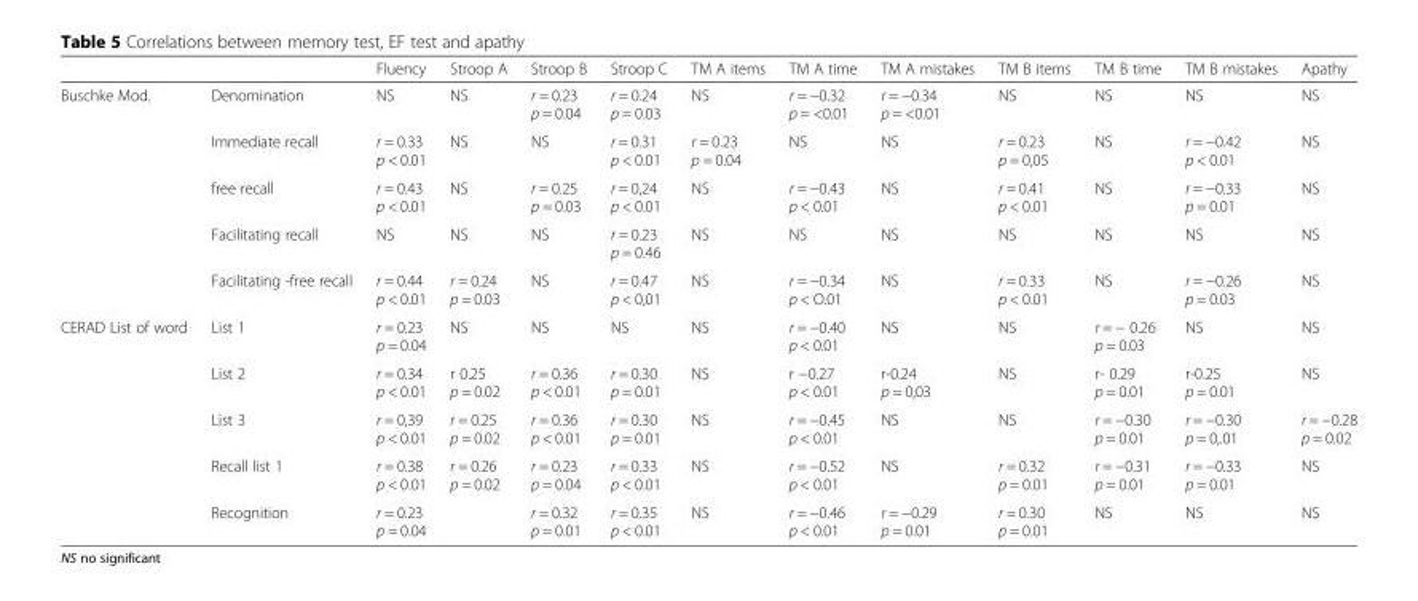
<table><thead><tr><td></td><td></td><td>Fluency</td><td>Stroop A</td><td>Stroop B</td><td>Stroop C</td><td>TM A items</td><td>TM A time</td><td>TM A mistakes</td><td>TM B items</td><td>TM B time</td><td>TM B mistakes</td><td>Apathy</td></tr></thead><tbody><tr><td rowspan="5">Buschke Mod.</td><td>Denomination</td><td>NS</td><td>NS</td><td>r = 0.23 p = 0.04</td><td>r = 0.24 p = 0.03</td><td>NS</td><td>r = −0.32 p = &lt;0.01</td><td>r = −0.34 p = &lt;0.01</td><td>NS</td><td>NS</td><td>NS</td><td>NS</td></tr><tr><td>Immediate recall</td><td>r = 0.33 p &lt; 0.01</td><td>NS</td><td>NS</td><td>r = 0.31 p &lt; 0.01</td><td>r = 0.23 p = 0.04</td><td>NS</td><td>NS</td><td>r = 0.23 p = 0,05</td><td>NS</td><td>r = −0.42 p &lt; 0.01</td><td>NS</td></tr><tr><td>free recall</td><td>r = 0.43 p &lt; 0.01</td><td>NS</td><td>r = 0.25 p = 0.03</td><td>r = 0,24 p &lt; 0.01</td><td>NS</td><td>r = −0.43 p &lt; 0.01</td><td>NS</td><td>r = 0.41 p &lt; 0.01</td><td>NS</td><td>r = −0.33 p = 0.01</td><td>NS</td></tr><tr><td>Facilitating recall</td><td>NS</td><td>NS</td><td>NS</td><td>r = 0.23 p = 0.46</td><td>NS</td><td>NS</td><td>NS</td><td>NS</td><td>NS</td><td>NS</td><td>NS</td></tr><tr><td>Facilitating -free recall</td><td>r = 0.44 p &lt; 0.01</td><td>r = 0.24 p = 0.03</td><td>NS</td><td>r = 0.47 p &lt; 0,01</td><td>NS</td><td>r = −0.34 p &lt; O.01</td><td>NS</td><td>r = 0.33 p &lt; 0.01</td><td>NS</td><td>r = −0.26 p = 0.03</td><td>NS</td></tr><tr><td rowspan="5">CERAD List of word</td><td>List 1</td><td>r = 0.23 p = 0.04</td><td>NS</td><td>NS</td><td>NS</td><td>NS</td><td>r = −0.40 p &lt; 0.01</td><td>NS</td><td>NS</td><td>r = − 0.26 p = 0.03</td><td>NS</td><td>NS</td></tr><tr><td>List 2</td><td>r = 0.34 p &lt; 0.01</td><td>r 0.25 p = 0.02</td><td>r = 0.36 p &lt; 0.01</td><td>r = 0.30 p = 0.01</td><td>NS</td><td>r −0.27 p &lt; 0.01</td><td>r-0.24 p = 0,03</td><td>NS</td><td>r- 0.29 p = 0.01</td><td>r-0.25 p = 0.01</td><td>NS</td></tr><tr><td>List 3</td><td>r = 0,39 p &lt; 0.01</td><td>r = 0.25 p = 0.02</td><td>r = 0.36 p &lt; 0.01</td><td>r = 0.30 p = 0.01</td><td>NS</td><td>r = −0.45 p &lt; 0.01</td><td>NS</td><td>NS</td><td>r = −0.30 p = 0.01</td><td>r = −0.30 p = 0,.01</td><td>r = −0.28 p = 0.02</td></tr><tr><td>Recall list 1</td><td>r = 0.38 p &lt; 0.01</td><td>r = 0.26 p = 0.02</td><td>r = 0.23 p = 0.04</td><td>r = 0.33 p &lt; 0.01</td><td>NS</td><td>r = −0.52 p &lt; 0.01</td><td>NS</td><td>r = 0.32 p = 0.01</td><td>r = −0.31 p = 0.01</td><td>r = −0.33 p = 0.01</td><td>NS</td></tr><tr><td>Recognition</td><td>r = 0.23 p = 0.04</td><td></td><td>r = 0.32 p = 0.01</td><td>r = 0.35 p &lt; 0.01</td><td>NS</td><td>r = −0.46 p &lt; 0.01</td><td>r = −0.29 p = 0.01</td><td>r = 0.30 p = 0.01</td><td>NS</td><td>NS</td><td>NS</td></tr></tbody></table>